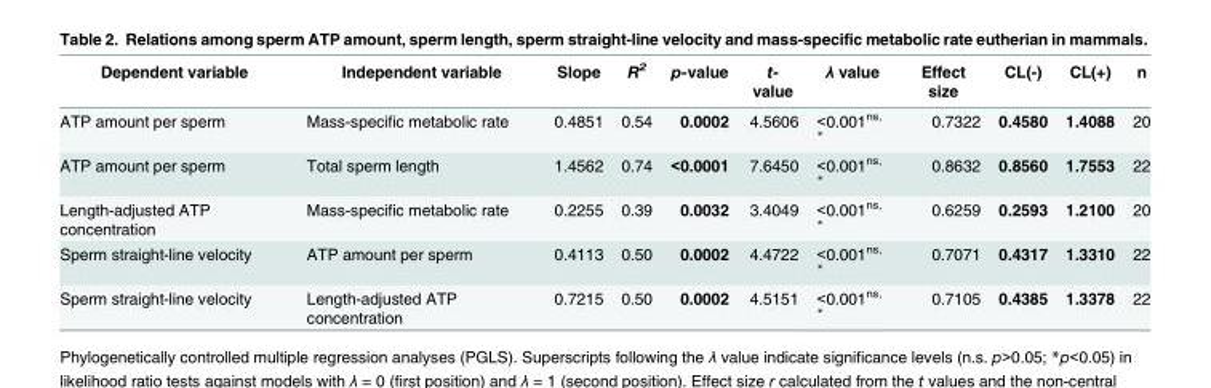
<table><thead><tr><td>Dependent variable</td><td>Independent variable</td><td>Slope</td><td>R<sup>2</sup></td><td>p-value</td><td>t- value</td><td>λ value</td><td>Effect size</td><td>CL(-)</td><td>CL(+)</td><td>n</td></tr></thead><tbody><tr><td>ATP amount per sperm</td><td>Mass-specific metabolic rate</td><td>0.4851</td><td>0.54</td><td>0.0002</td><td>4.5606</td><td>&lt;0.001<sup>ns, *</sup></td><td>0.7322</td><td>0.4580</td><td>1.4088</td><td>20</td></tr><tr><td>ATP amount per sperm</td><td>Total sperm length</td><td>1.4562</td><td>0.74</td><td>&lt;0.0001</td><td>7.6450</td><td>&lt;0.001<sup>ns, *</sup></td><td>0.8632</td><td>0.8560</td><td>1.7553</td><td>22</td></tr><tr><td>Length-adjusted ATP concentration</td><td>Mass-specific metabolic rate</td><td>0.2255</td><td>0.39</td><td>0.0032</td><td>3.4049</td><td>&lt;0.001<sup>ns, *</sup></td><td>0.6259</td><td>0.2593</td><td>1.2100</td><td>20</td></tr><tr><td>Sperm straight-line velocity</td><td>ATP amount per sperm</td><td>0.4113</td><td>0.50</td><td>0.0002</td><td>4.4722</td><td>&lt;0.001<sup>ns, *</sup></td><td>0.7071</td><td>0.4317</td><td>1.3310</td><td>22</td></tr><tr><td>Sperm straight-line velocity</td><td>Length-adjusted ATP concentration</td><td>0.7215</td><td>0.50</td><td>0.0002</td><td>4.5151</td><td>&lt;0.001<sup>ns, *</sup></td><td>0.7105</td><td>0.4385</td><td>1.3378</td><td>22</td></tr></tbody></table>